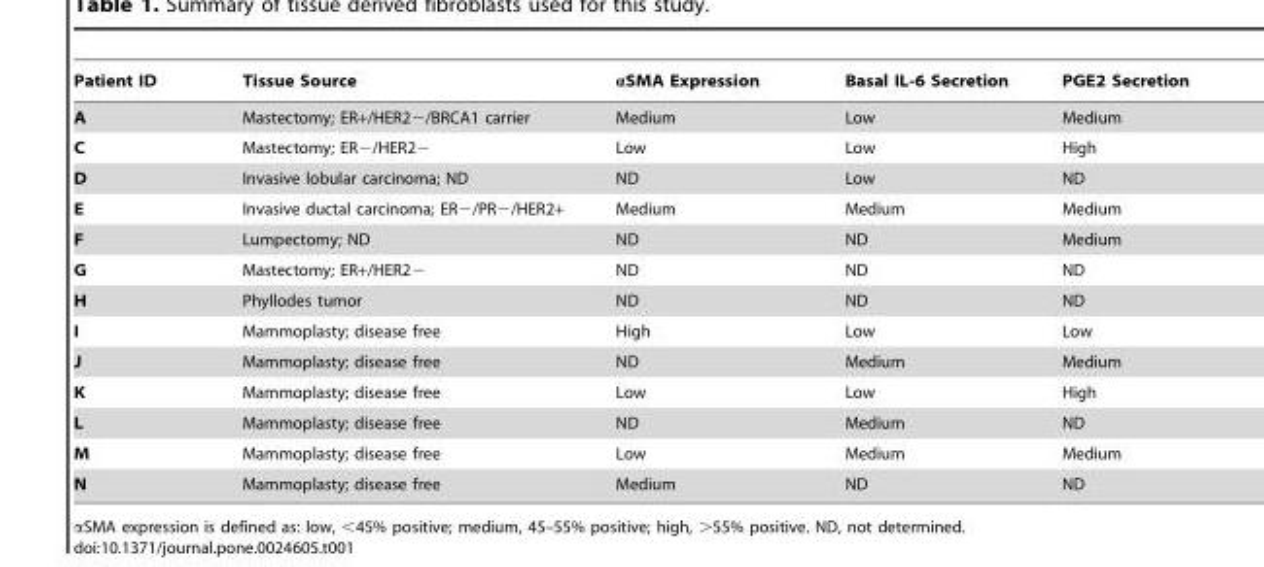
<table><thead><tr><td>Patient ID</td><td>Tissue Source</td><td>αSMA Expression</td><td>Basal IL-6 Secretion</td><td>PGE2 Secretion</td></tr></thead><tbody><tr><td>A</td><td>Mastectomy; ER+/HER2−/BRCA1 carrier</td><td>Medium</td><td>Low</td><td>Medium</td></tr><tr><td>C</td><td>Mastectomy; ER−/HER2−</td><td>Low</td><td>Low</td><td>High</td></tr><tr><td>D</td><td>Invasive lobular carcinoma; ND</td><td>ND</td><td>Low</td><td>ND</td></tr><tr><td>E</td><td>Invasive ductal carcinoma; ER−/PR−/HER2+</td><td>Medium</td><td>Medium</td><td>Medium</td></tr><tr><td>F</td><td>Lumpectomy; ND</td><td>ND</td><td>ND</td><td>Medium</td></tr><tr><td>G</td><td>Mastectomy; ER+/HER2−</td><td>ND</td><td>ND</td><td>ND</td></tr><tr><td>H</td><td>Phyllodes tumor</td><td>ND</td><td>ND</td><td>ND</td></tr><tr><td>I</td><td>Mammoplasty; disease free</td><td>High</td><td>Low</td><td>Low</td></tr><tr><td>J</td><td>Mammoplasty; disease free</td><td>ND</td><td>Medium</td><td>Medium</td></tr><tr><td>K</td><td>Mammoplasty; disease free</td><td>Low</td><td>Low</td><td>High</td></tr><tr><td>L</td><td>Mammoplasty; disease free</td><td>ND</td><td>Medium</td><td>ND</td></tr><tr><td>M</td><td>Mammoplasty; disease free</td><td>Low</td><td>Medium</td><td>Medium</td></tr><tr><td>N</td><td>Mammoplasty; disease free</td><td>Medium</td><td>ND</td><td>ND</td></tr></tbody></table>